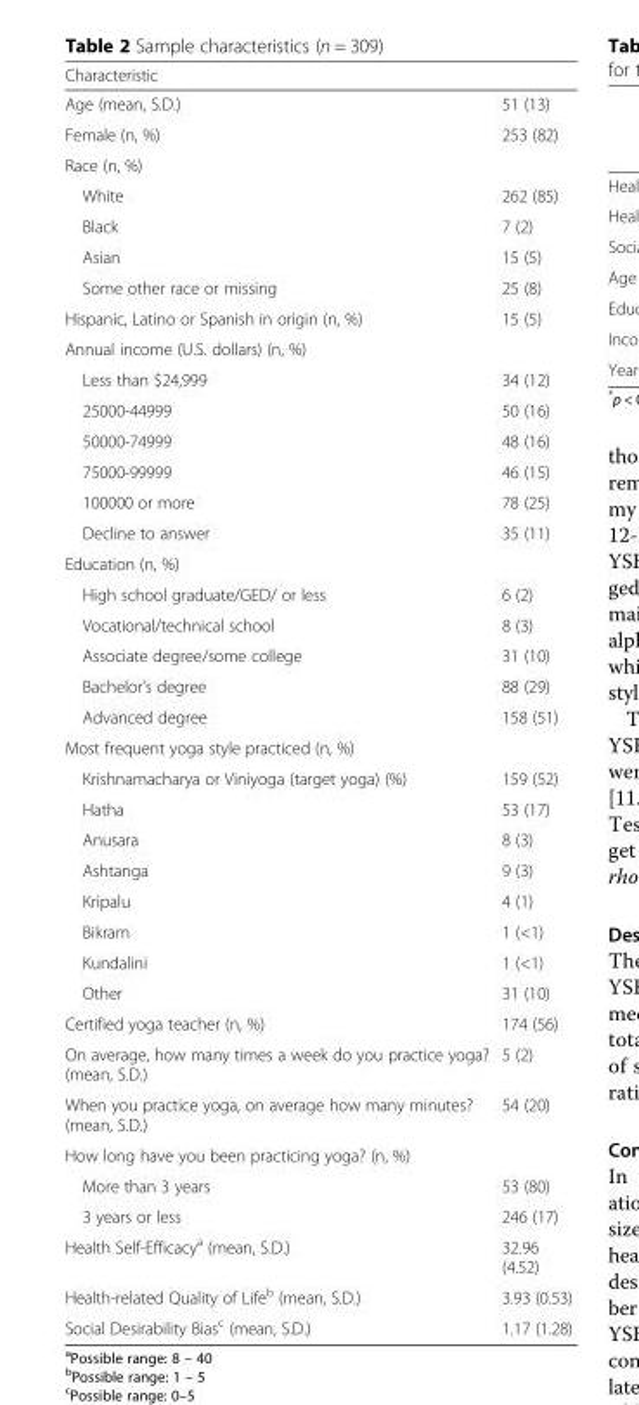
<table><thead><tr><td>Characteristic</td><td></td></tr></thead><tbody><tr><td>Age (mean, S.D.)</td><td>51 (13)</td></tr><tr><td>Female (n, %)</td><td>253 (82)</td></tr><tr><td colspan="2">Race (n, %)</td></tr><tr><td>White</td><td>262 (85)</td></tr><tr><td>Black</td><td>7 (2)</td></tr><tr><td>Asian</td><td>15 (5)</td></tr><tr><td>Some other race or missing</td><td>25 (8)</td></tr><tr><td>Hispanic, Latino or Spanish in origin (n, %)</td><td>15 (5)</td></tr><tr><td colspan="2">Annual income (U.S. dollars) (n, %)</td></tr><tr><td>Less than $24,999</td><td>34 (12)</td></tr><tr><td>25000-44999</td><td>50 (16)</td></tr><tr><td>50000-74999</td><td>48 (16)</td></tr><tr><td>75000-99999</td><td>46 (15)</td></tr><tr><td>100000 or more</td><td>78 (25)</td></tr><tr><td>Decline to answer</td><td>35 (11)</td></tr><tr><td colspan="2">Education (n, %)</td></tr><tr><td>High school graduate/GED/ or less</td><td>6 (2)</td></tr><tr><td>Vocational/technical school</td><td>8 (3)</td></tr><tr><td>Associate degree/some college</td><td>31 (10)</td></tr><tr><td>Bachelor’s degree</td><td>88 (29)</td></tr><tr><td>Advanced degree</td><td>158 (51)</td></tr><tr><td colspan="2">Most frequent yoga style practiced (n, %)</td></tr><tr><td>Krishnamacharya or Viniyoga (target yoga) (%)</td><td>159 (52)</td></tr><tr><td>Hatha</td><td>53 (17)</td></tr><tr><td>Anusara</td><td>8 (3)</td></tr><tr><td>Ashtanga</td><td>9 (3)</td></tr><tr><td>Kripalu</td><td>4 (1)</td></tr><tr><td>Bikram</td><td>1 (&lt;1)</td></tr><tr><td>Kundalini</td><td>1 (&lt;1)</td></tr><tr><td>Other</td><td>31 (10)</td></tr><tr><td>Certified yoga teacher (n, %)</td><td>174 (56)</td></tr><tr><td>On average, how many times a week do you practice yoga? (mean, S.D.)</td><td>5 (2)</td></tr><tr><td>When you practice yoga, on average how many minutes? (mean, S.D.)</td><td>54 (20)</td></tr><tr><td colspan="2">How long have you been practicing yoga? (n, %)</td></tr><tr><td>More than 3 years</td><td>53 (80)</td></tr><tr><td>3 years or less</td><td>246 (17)</td></tr><tr><td>Health Self-Efficacy<sup>a</sup> (mean, S.D.)</td><td>32.96 (4.52)</td></tr><tr><td>Health-related Quality of Life<sup>b</sup> (mean, S.D.)</td><td>3.93 (0.53)</td></tr><tr><td>Social Desirability Bias<sup>c</sup> (mean, S.D.)</td><td>1.17 (1.28)</td></tr></tbody></table>